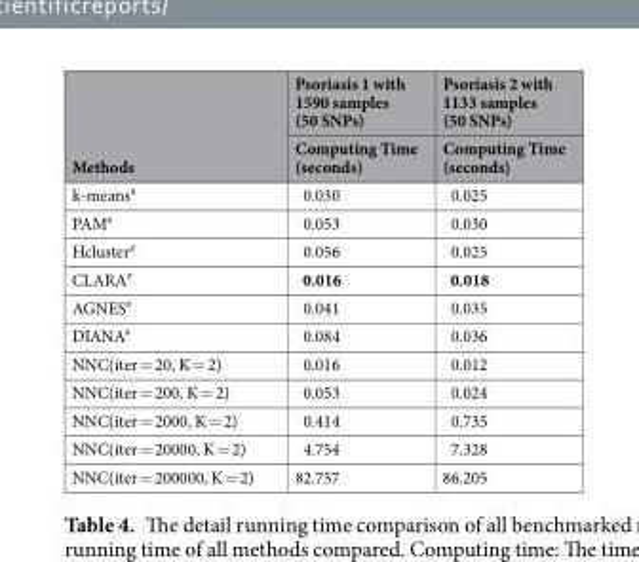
<table><thead><tr><td rowspan="2">Methods</td><td rowspan="2">Psoriasis 1 with 1590 samples (50 SNPs) Computing Time (seconds)</td><td rowspan="2">Psoriasis 2 with 1133 samples (50 SNPs) Computing Time (seconds)</td></tr><tr></tr></thead><tbody><tr><td>k-means<sup>#</sup></td><td>0.030</td><td>0.025</td></tr><tr><td>PAM<sup>#</sup></td><td>0.053</td><td>0.030</td></tr><tr><td>Hcluster<sup>#</sup></td><td>0.056</td><td>0.025</td></tr><tr><td>CLARA<sup>#</sup></td><td>0.016</td><td>0.018</td></tr><tr><td>AGNES<sup>#</sup></td><td>0.041</td><td>0.035</td></tr><tr><td>DIANA<sup>#</sup></td><td>0.084</td><td>0.036</td></tr><tr><td>NNC(iter = 20, K = 2)</td><td>0.016</td><td>0.012</td></tr><tr><td>NNC(iter = 200, K = 2)</td><td>0.053</td><td>0.024</td></tr><tr><td>NNC(iter = 2000, K = 2)</td><td>0.414</td><td>0.735</td></tr><tr><td>NNC(iter = 20000, K = 2)</td><td>4.754</td><td>7.328</td></tr><tr><td>NNC(iter = 200000, K = 2)</td><td>82.757</td><td>86.205</td></tr></tbody></table>